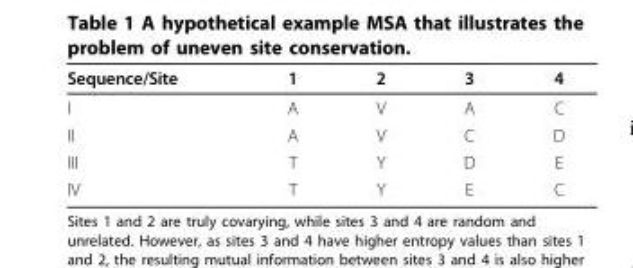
<table><thead><tr><td>Sequence/Site</td><td>1</td><td>2</td><td>3</td><td>4</td></tr></thead><tbody><tr><td>I</td><td>A</td><td>V</td><td>A</td><td>C</td></tr><tr><td>II</td><td>A</td><td>V</td><td>C</td><td>D</td></tr><tr><td>III</td><td>T</td><td>Y</td><td>D</td><td>E</td></tr><tr><td>IV</td><td>T</td><td>Y</td><td>E</td><td>C</td></tr></tbody></table>